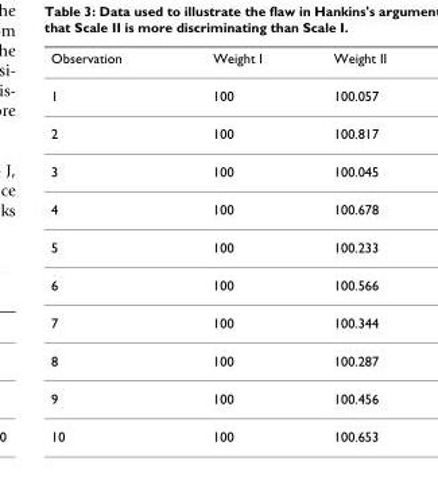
<table><thead><tr><td>Observation</td><td>Weight I</td><td>Weight II</td></tr></thead><tbody><tr><td>1</td><td>100</td><td>100.057</td></tr><tr><td>2</td><td>100</td><td>100.817</td></tr><tr><td>3</td><td>100</td><td>100.045</td></tr><tr><td>4</td><td>100</td><td>100.678</td></tr><tr><td>5</td><td>100</td><td>100.233</td></tr><tr><td>6</td><td>100</td><td>100.566</td></tr><tr><td>7</td><td>100</td><td>100.344</td></tr><tr><td>8</td><td>100</td><td>100.287</td></tr><tr><td>9</td><td>100</td><td>100.456</td></tr><tr><td>10</td><td>100</td><td>100.653</td></tr></tbody></table>